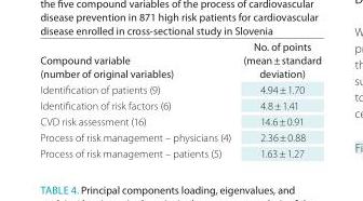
<table><thead><tr><td>compound variable (number of original variables)</td><td>no. of points (mean ± standard deviation)</td></tr></thead><tbody><tr><td>Identification of patients (9)</td><td>4.94 ± 1.70</td></tr><tr><td>Identification of risk factors (6)</td><td>4.8 ± 1.41</td></tr><tr><td>CVD risk assessment (16)</td><td>14.6 ± 0.91</td></tr><tr><td>Process of risk management – physicians (4)</td><td>2.36 ± 0.88</td></tr><tr><td>Process of risk management – patients (5)</td><td>1.63 ± 1.27</td></tr></tbody></table>